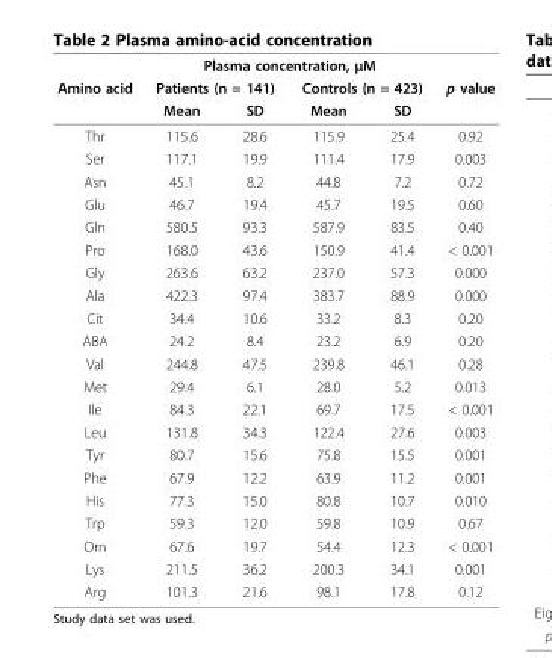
<table><thead><tr><td rowspan="3">Amino acid</td><td colspan="4">Plasma concentration, μM</td><td rowspan="3">p value</td></tr><tr><td colspan="2">Patients (n = 141)</td><td colspan="2">Controls (n = 423)</td></tr><tr><td>Mean</td><td>SD</td><td>Mean</td><td>SD</td></tr></thead><tbody><tr><td>Thr</td><td>115.6</td><td>28.6</td><td>115.9</td><td>25.4</td><td>0.92</td></tr><tr><td>Ser</td><td>117.1</td><td>19.9</td><td>111.4</td><td>17.9</td><td>0.003</td></tr><tr><td>Asn</td><td>45.1</td><td>8.2</td><td>44.8</td><td>7.2</td><td>0.72</td></tr><tr><td>Glu</td><td>46.7</td><td>19.4</td><td>45.7</td><td>19.5</td><td>0.60</td></tr><tr><td>Gln</td><td>580.5</td><td>93.3</td><td>587.9</td><td>83.5</td><td>0.40</td></tr><tr><td>Pro</td><td>168.0</td><td>43.6</td><td>150.9</td><td>41.4</td><td>&lt; 0.001</td></tr><tr><td>Gly</td><td>263.6</td><td>63.2</td><td>237.0</td><td>57.3</td><td>0.000</td></tr><tr><td>Ala</td><td>422.3</td><td>97.4</td><td>383.7</td><td>88.9</td><td>0.000</td></tr><tr><td>Cit</td><td>34.4</td><td>10.6</td><td>33.2</td><td>8.3</td><td>0.20</td></tr><tr><td>ABA</td><td>24.2</td><td>8.4</td><td>23.2</td><td>6.9</td><td>0.20</td></tr><tr><td>Val</td><td>244.8</td><td>47.5</td><td>239.8</td><td>46.1</td><td>0.28</td></tr><tr><td>Met</td><td>29.4</td><td>6.1</td><td>28.0</td><td>5.2</td><td>0.013</td></tr><tr><td>Ile</td><td>84.3</td><td>22.1</td><td>69.7</td><td>17.5</td><td>&lt; 0.001</td></tr><tr><td>Leu</td><td>131.8</td><td>34.3</td><td>122.4</td><td>27.6</td><td>0.003</td></tr><tr><td>Tyr</td><td>80.7</td><td>15.6</td><td>75.8</td><td>15.5</td><td>0.001</td></tr><tr><td>Phe</td><td>67.9</td><td>12.2</td><td>63.9</td><td>11.2</td><td>0.001</td></tr><tr><td>His</td><td>77.3</td><td>15.0</td><td>80.8</td><td>10.7</td><td>0.010</td></tr><tr><td>Trp</td><td>59.3</td><td>12.0</td><td>59.8</td><td>10.9</td><td>0.67</td></tr><tr><td>Orn</td><td>67.6</td><td>19.7</td><td>54.4</td><td>12.3</td><td>&lt; 0.001</td></tr><tr><td>Lys</td><td>211.5</td><td>36.2</td><td>200.3</td><td>34.1</td><td>0.001</td></tr><tr><td>Arg</td><td>101.3</td><td>21.6</td><td>98.1</td><td>17.8</td><td>0.12</td></tr></tbody></table>